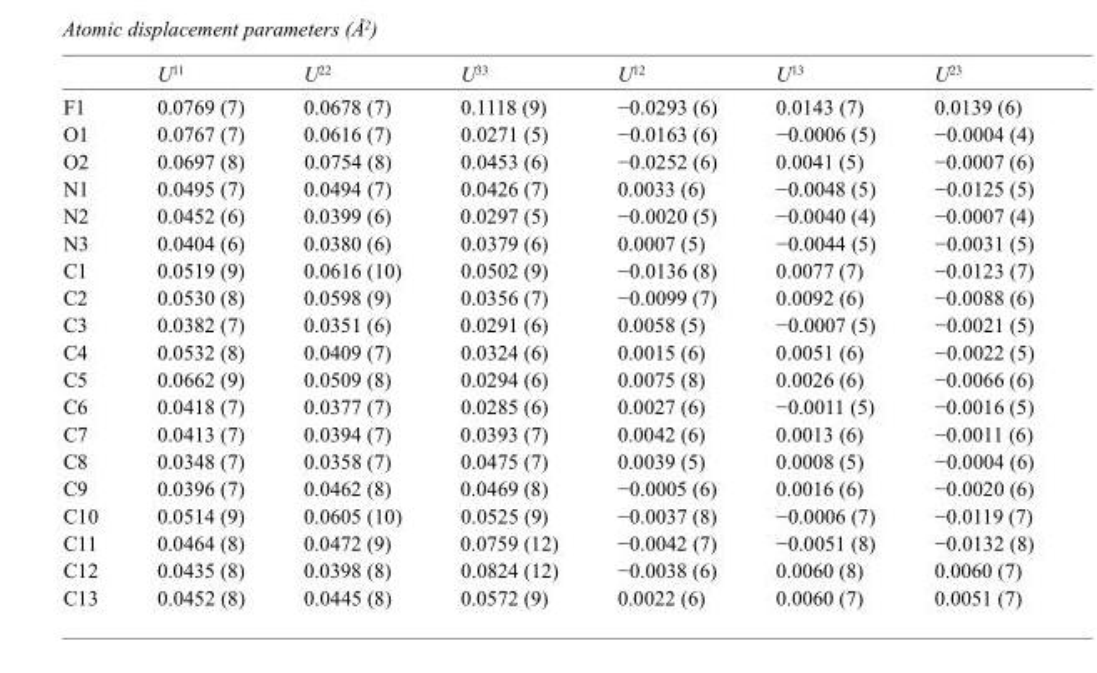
<table><thead><tr><td></td><td>U<sup>11</sup></td><td>U<sup>22</sup></td><td>U<sup>33</sup></td><td>U<sup>12</sup></td><td>U<sup>13</sup></td><td>U<sup>23</sup></td></tr></thead><tbody><tr><td>F1</td><td>0.0769 (7)</td><td>0.0678 (7)</td><td>0.1118 (9)</td><td>−0.0293 (6)</td><td>0.0143 (7)</td><td>0.0139 (6)</td></tr><tr><td>O1</td><td>0.0767 (7)</td><td>0.0616 (7)</td><td>0.0271 (5)</td><td>−0.0163 (6)</td><td>−0.0006 (5)</td><td>−0.0004 (4)</td></tr><tr><td>O2</td><td>0.0697 (8)</td><td>0.0754 (8)</td><td>0.0453 (6)</td><td>−0.0252 (6)</td><td>0.0041 (5)</td><td>−0.0007 (6)</td></tr><tr><td>N1</td><td>0.0495 (7)</td><td>0.0494 (7)</td><td>0.0426 (7)</td><td>0.0033 (6)</td><td>−0.0048 (5)</td><td>−0.0125 (5)</td></tr><tr><td>N2</td><td>0.0452 (6)</td><td>0.0399 (6)</td><td>0.0297 (5)</td><td>−0.0020 (5)</td><td>−0.0040 (4)</td><td>−0.0007 (4)</td></tr><tr><td>N3</td><td>0.0404 (6)</td><td>0.0380 (6)</td><td>0.0379 (6)</td><td>0.0007 (5)</td><td>−0.0044 (5)</td><td>−0.0031 (5)</td></tr><tr><td>C1</td><td>0.0519 (9)</td><td>0.0616 (10)</td><td>0.0502 (9)</td><td>−0.0136 (8)</td><td>0.0077 (7)</td><td>−0.0123 (7)</td></tr><tr><td>C2</td><td>0.0530 (8)</td><td>0.0598 (9)</td><td>0.0356 (7)</td><td>−0.0099 (7)</td><td>0.0092 (6)</td><td>−0.0088 (6)</td></tr><tr><td>C3</td><td>0.0382 (7)</td><td>0.0351 (6)</td><td>0.0291 (6)</td><td>0.0058 (5)</td><td>−0.0007 (5)</td><td>−0.0021 (5)</td></tr><tr><td>C4</td><td>0.0532 (8)</td><td>0.0409 (7)</td><td>0.0324 (6)</td><td>0.0015 (6)</td><td>0.0051 (6)</td><td>−0.0022 (5)</td></tr><tr><td>C5</td><td>0.0662 (9)</td><td>0.0509 (8)</td><td>0.0294 (6)</td><td>0.0075 (8)</td><td>0.0026 (6)</td><td>−0.0066 (6)</td></tr><tr><td>C6</td><td>0.0418 (7)</td><td>0.0377 (7)</td><td>0.0285 (6)</td><td>0.0027 (6)</td><td>−0.0011 (5)</td><td>−0.0016 (5)</td></tr><tr><td>C7</td><td>0.0413 (7)</td><td>0.0394 (7)</td><td>0.0393 (7)</td><td>0.0042 (6)</td><td>0.0013 (6)</td><td>−0.0011 (6)</td></tr><tr><td>C8</td><td>0.0348 (7)</td><td>0.0358 (7)</td><td>0.0475 (7)</td><td>0.0039 (5)</td><td>0.0008 (5)</td><td>−0.0004 (6)</td></tr><tr><td>C9</td><td>0.0396 (7)</td><td>0.0462 (8)</td><td>0.0469 (8)</td><td>−0.0005 (6)</td><td>0.0016 (6)</td><td>−0.0020 (6)</td></tr><tr><td>C10</td><td>0.0514 (9)</td><td>0.0605 (10)</td><td>0.0525 (9)</td><td>−0.0037 (8)</td><td>−0.0006 (7)</td><td>−0.0119 (7)</td></tr><tr><td>C11</td><td>0.0464 (8)</td><td>0.0472 (9)</td><td>0.0759 (12)</td><td>−0.0042 (7)</td><td>−0.0051 (8)</td><td>−0.0132 (8)</td></tr><tr><td>C12</td><td>0.0435 (8)</td><td>0.0398 (8)</td><td>0.0824 (12)</td><td>−0.0038 (6)</td><td>0.0060 (8)</td><td>0.0060 (7)</td></tr><tr><td>C13</td><td>0.0452 (8)</td><td>0.0445 (8)</td><td>0.0572 (9)</td><td>0.0022 (6)</td><td>0.0060 (7)</td><td>0.0051 (7)</td></tr></tbody></table>